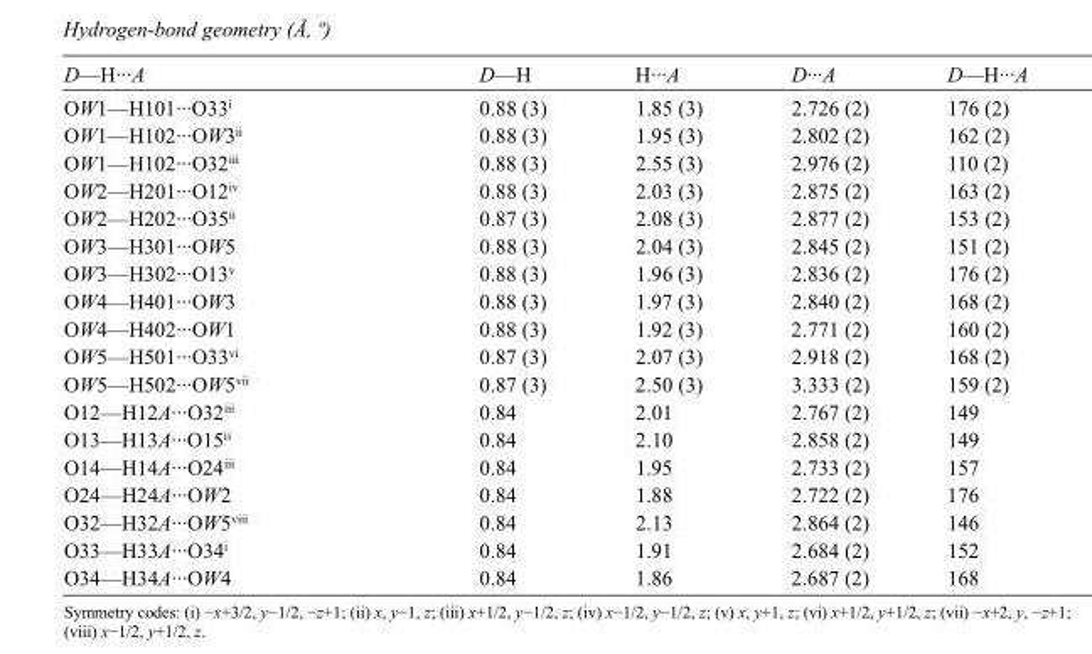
<table><tbody><tr><td>D—H···A</td><td>D—H</td><td>H···A</td><td>D···A</td><td>D—H···A</td></tr><tr><td>OW1—H101···O33<sup>i</sup></td><td>0.88 (3)</td><td>1.85 (3)</td><td>2.726 (2)</td><td>176 (2)</td></tr><tr><td>OW1—H102···OW3<sup>ii</sup></td><td>0.88 (3)</td><td>1.95 (3)</td><td>2.802 (2)</td><td>162 (2)</td></tr><tr><td>OW1—H102···O32<sup>iii</sup></td><td>0.88 (3)</td><td>2.55 (3)</td><td>2.976 (2)</td><td>110 (2)</td></tr><tr><td>OW2—H201···O12<sup>iv</sup></td><td>0.88 (3)</td><td>2.03 (3)</td><td>2.875 (2)</td><td>163 (2)</td></tr><tr><td>OW2—H202···O35<sup>ii</sup></td><td>0.87 (3)</td><td>2.08 (3)</td><td>2.877 (2)</td><td>153 (2)</td></tr><tr><td>OW3—H301···OW5</td><td>0.88 (3)</td><td>2.04 (3)</td><td>2.845 (2)</td><td>151 (2)</td></tr><tr><td>OW3—H302···O13<sup>v</sup></td><td>0.88 (3)</td><td>1.96 (3)</td><td>2.836 (2)</td><td>176 (2)</td></tr><tr><td>OW4—H401···OW3</td><td>0.88 (3)</td><td>1.97 (3)</td><td>2.840 (2)</td><td>168 (2)</td></tr><tr><td>OW4—H402···OW1</td><td>0.88 (3)</td><td>1.92 (3)</td><td>2.771 (2)</td><td>160 (2)</td></tr><tr><td>OW5—H501···O33<sup>vi</sup></td><td>0.87 (3)</td><td>2.07 (3)</td><td>2.918 (2)</td><td>168 (2)</td></tr><tr><td>OW5—H502···OW5<sup>vii</sup></td><td>0.87 (3)</td><td>2.50 (3)</td><td>3.333 (2)</td><td>159 (2)</td></tr><tr><td>O12—H12A···O32<sup>iii</sup></td><td>0.84</td><td>2.01</td><td>2.767 (2)</td><td>149</td></tr><tr><td>O13—H13A···O15<sup>ii</sup></td><td>0.84</td><td>2.10</td><td>2.858 (2)</td><td>149</td></tr><tr><td>O14—H14A···O24<sup>iii</sup></td><td>0.84</td><td>1.95</td><td>2.733 (2)</td><td>157</td></tr><tr><td>O24—H24A···OW2</td><td>0.84</td><td>1.88</td><td>2.722 (2)</td><td>176</td></tr><tr><td>O32—H32A···OW5<sup>viii</sup></td><td>0.84</td><td>2.13</td><td>2.864 (2)</td><td>146</td></tr><tr><td>O33—H33A···O34<sup>i</sup></td><td>0.84</td><td>1.91</td><td>2.684 (2)</td><td>152</td></tr><tr><td>O34—H34A···OW4</td><td>0.84</td><td>1.86</td><td>2.687 (2)</td><td>168</td></tr></tbody></table>